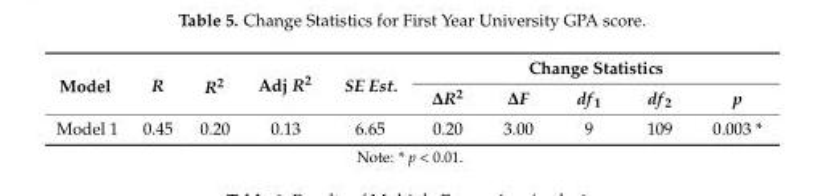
<table><thead><tr><td rowspan="2">Model</td><td rowspan="2">R</td><td rowspan="2">R<sup>2</sup></td><td rowspan="2">Adj R<sup>2</sup></td><td rowspan="2">SE Est.</td><td colspan="5">Change Statistics</td></tr><tr><td>∆R2</td><td>∆F</td><td>df<sub>1</sub></td><td>df<sub>2</sub></td><td>p</td></tr></thead><tbody><tr><td>Model 1</td><td>0.45</td><td>0.20</td><td>0.13</td><td>6.65</td><td>0.20</td><td>3.00</td><td>9</td><td>109</td><td>0.003 *</td></tr></tbody></table>